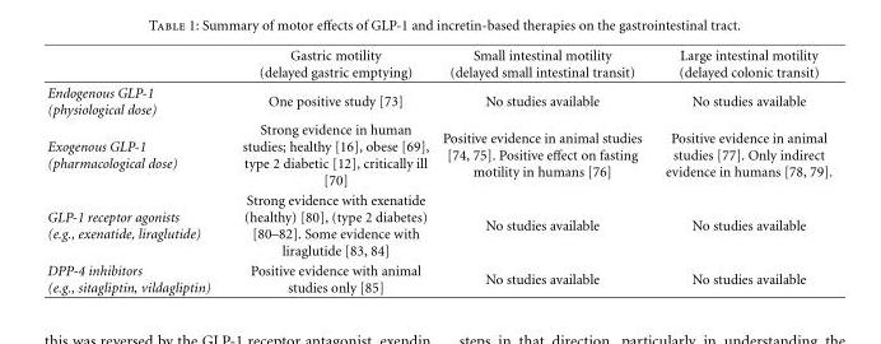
<table><thead><tr><td></td><td>Gastric motility (delayed gastric emptying)</td><td>Small intestinal motility (delayed small intestinal transit)</td><td>Large intestinal motility (delayed colonic transit)</td></tr></thead><tbody><tr><td>Endogenous GLP-1 (physiological dose)</td><td>One positive study [73]</td><td>No studies available</td><td>No studies available</td></tr><tr><td>Exogenous GLP-1 (pharmacological dose)</td><td>Strong evidence in human studies; healthy [16], obese [69], type 2 diabetic [12], critically ill [70]</td><td>Positive evidence in animal studies [74, 75]. Positive effect on fasting motility in humans [76]</td><td>Positive evidence in animal studies [77]. Only indirect evidence in humans [78, 79].</td></tr><tr><td>GLP-1 receptor agonists (e.g., exenatide, liraglutide)</td><td>Strong evidence with exenatide (healthy) [80], (type 2 diabetes) [80–82]. Some evidence with liraglutide [83, 84]</td><td>No studies available</td><td>No studies available</td></tr><tr><td>DPP-4 inhibitors (e.g., sitagliptin, vildagliptin)</td><td>Positive evidence with animal studies only [85]</td><td>No studies available</td><td>No studies available</td></tr></tbody></table>